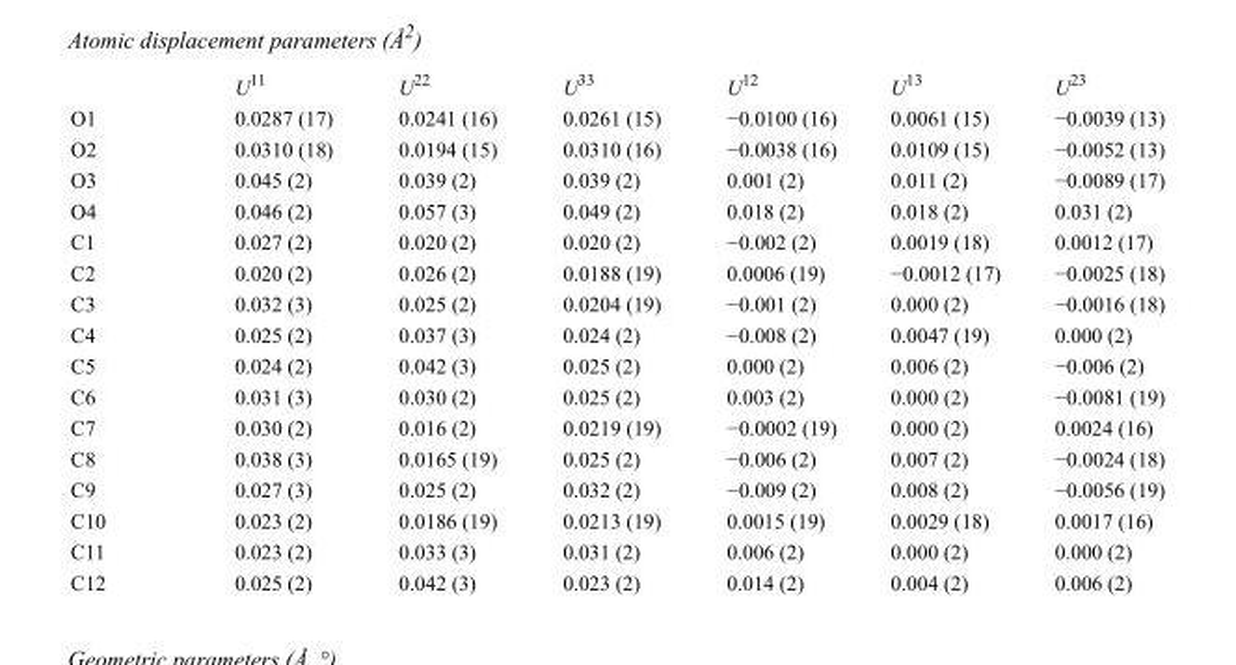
<table><thead><tr><td></td><td>U<sup>11</sup></td><td>U<sup>22</sup></td><td>U<sup>33</sup></td><td>U<sup>12</sup></td><td>U<sup>13</sup></td><td>U<sup>23</sup></td></tr></thead><tbody><tr><td>O1</td><td>0.0287 (17)</td><td>0.0241 (16)</td><td>0.0261 (15)</td><td>−0.0100 (16)</td><td>0.0061 (15)</td><td>−0.0039 (13)</td></tr><tr><td>O2</td><td>0.0310 (18)</td><td>0.0194 (15)</td><td>0.0310 (16)</td><td>−0.0038 (16)</td><td>0.0109 (15)</td><td>−0.0052 (13)</td></tr><tr><td>O3</td><td>0.045 (2)</td><td>0.039 (2)</td><td>0.039 (2)</td><td>0.001 (2)</td><td>0.011 (2)</td><td>−0.0089 (17)</td></tr><tr><td>O4</td><td>0.046 (2)</td><td>0.057 (3)</td><td>0.049 (2)</td><td>0.018 (2)</td><td>0.018 (2)</td><td>0.031 (2)</td></tr><tr><td>C1</td><td>0.027 (2)</td><td>0.020 (2)</td><td>0.020 (2)</td><td>−0.002 (2)</td><td>0.0019 (18)</td><td>0.0012 (17)</td></tr><tr><td>C2</td><td>0.020 (2)</td><td>0.026 (2)</td><td>0.0188 (19)</td><td>0.0006 (19)</td><td>−0.0012 (17)</td><td>−0.0025 (18)</td></tr><tr><td>C3</td><td>0.032 (3)</td><td>0.025 (2)</td><td>0.0204 (19)</td><td>−0.001 (2)</td><td>0.000 (2)</td><td>−0.0016 (18)</td></tr><tr><td>C4</td><td>0.025 (2)</td><td>0.037 (3)</td><td>0.024 (2)</td><td>−0.008 (2)</td><td>0.0047 (19)</td><td>0.000 (2)</td></tr><tr><td>C5</td><td>0.024 (2)</td><td>0.042 (3)</td><td>0.025 (2)</td><td>0.000 (2)</td><td>0.006 (2)</td><td>−0.006 (2)</td></tr><tr><td>C6</td><td>0.031 (3)</td><td>0.030 (2)</td><td>0.025 (2)</td><td>0.003 (2)</td><td>0.000 (2)</td><td>−0.0081 (19)</td></tr><tr><td>C7</td><td>0.030 (2)</td><td>0.016 (2)</td><td>0.0219 (19)</td><td>−0.0002 (19)</td><td>0.000 (2)</td><td>0.0024 (16)</td></tr><tr><td>C8</td><td>0.038 (3)</td><td>0.0165 (19)</td><td>0.025 (2)</td><td>−0.006 (2)</td><td>0.007 (2)</td><td>−0.0024 (18)</td></tr><tr><td>C9</td><td>0.027 (3)</td><td>0.025 (2)</td><td>0.032 (2)</td><td>−0.009 (2)</td><td>0.008 (2)</td><td>−0.0056 (19)</td></tr><tr><td>C10</td><td>0.023 (2)</td><td>0.0186 (19)</td><td>0.0213 (19)</td><td>0.0015 (19)</td><td>0.0029 (18)</td><td>0.0017 (16)</td></tr><tr><td>C11</td><td>0.023 (2)</td><td>0.033 (3)</td><td>0.031 (2)</td><td>0.006 (2)</td><td>0.000 (2)</td><td>0.000 (2)</td></tr><tr><td>C12</td><td>0.025 (2)</td><td>0.042 (3)</td><td>0.023 (2)</td><td>0.014 (2)</td><td>0.004 (2)</td><td>0.006 (2)</td></tr></tbody></table>